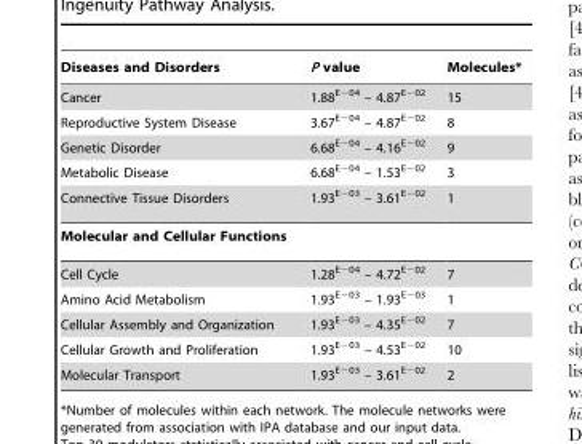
<table><thead><tr><td>Diseases and Disorders</td><td>P value</td><td>Molecules*</td></tr></thead><tbody><tr><td>Cancer</td><td>1.88<sup>E−04</sup> – 4.87<sup>E−02</sup></td><td>15</td></tr><tr><td>Reproductive System Disease</td><td>3.67<sup>E−04</sup> – 4.87<sup>E−02</sup></td><td>8</td></tr><tr><td>Genetic Disorder</td><td>6.68<sup>E−04</sup> – 4.16<sup>E−02</sup></td><td>9</td></tr><tr><td>Metabolic Disease</td><td>6.68<sup>E−04</sup> – 1.53<sup>E−02</sup></td><td>3</td></tr><tr><td>Connective Tissue Disorders</td><td>1.93<sup>E−03</sup> – 3.61<sup>E−02</sup></td><td>1</td></tr><tr><td colspan="3">Molecular and Cellular Functions</td></tr><tr><td>Cell Cycle</td><td>1.28<sup>E−04</sup> – 4.72<sup>E−02</sup></td><td>7</td></tr><tr><td>Amino Acid Metabolism</td><td>1.93<sup>E−03</sup> – 1.93<sup>E−03</sup></td><td>1</td></tr><tr><td>Cellular Assembly and Organization</td><td>1.93<sup>E−03</sup> – 4.35<sup>E−02</sup></td><td>7</td></tr><tr><td>Cellular Growth and Proliferation</td><td>1.93<sup>E−03</sup> – 4.53<sup>E−02</sup></td><td>10</td></tr><tr><td>Molecular Transport</td><td>1.93<sup>E−03</sup> – 3.61<sup>E−02</sup></td><td>2</td></tr></tbody></table>